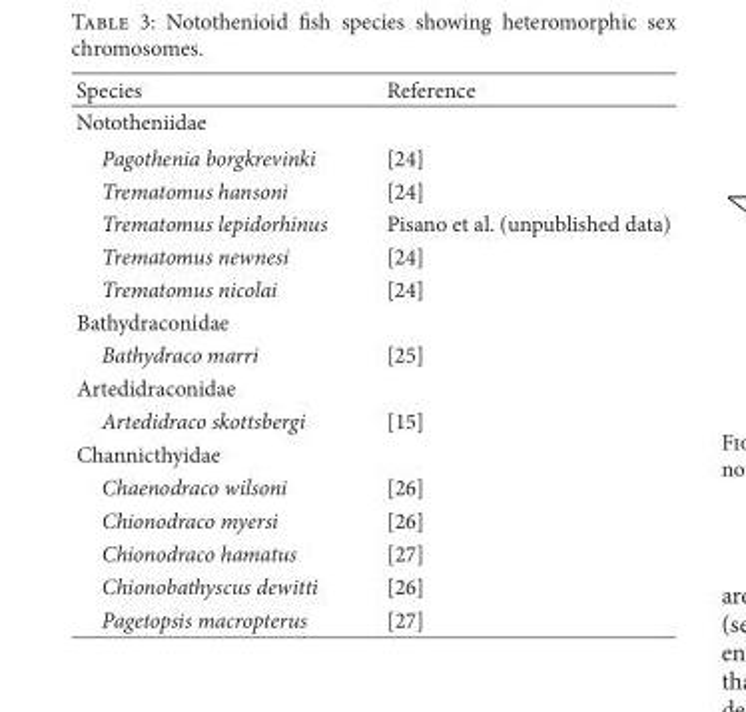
<table><thead><tr><td>Species</td><td>Reference</td></tr></thead><tbody><tr><td colspan="2">Nototheniidae</td></tr><tr><td>Pagothenia borgkrevinki</td><td>[24]</td></tr><tr><td>Trematomus hansoni</td><td>[24]</td></tr><tr><td>Trematomus lepidorhinus</td><td>Pisano et al. (unpublished data)</td></tr><tr><td>Trematomus newnesi</td><td>[24]</td></tr><tr><td>Trematomus nicolai</td><td>[24]</td></tr><tr><td colspan="2">Bathydraconidae</td></tr><tr><td>Bathydraco marri</td><td>[25]</td></tr><tr><td colspan="2">Artedidraconidae</td></tr><tr><td>Artedidraco skottsbergi</td><td>[15]</td></tr><tr><td colspan="2">Channicthyidae</td></tr><tr><td>Chaenodraco wilsoni</td><td>[26]</td></tr><tr><td>Chionodraco myersi</td><td>[26]</td></tr><tr><td>Chionodraco hamatus</td><td>[27]</td></tr><tr><td>Chionobathyscus dewitti</td><td>[26]</td></tr><tr><td>Pagetopsis macropterus</td><td>[27]</td></tr></tbody></table>